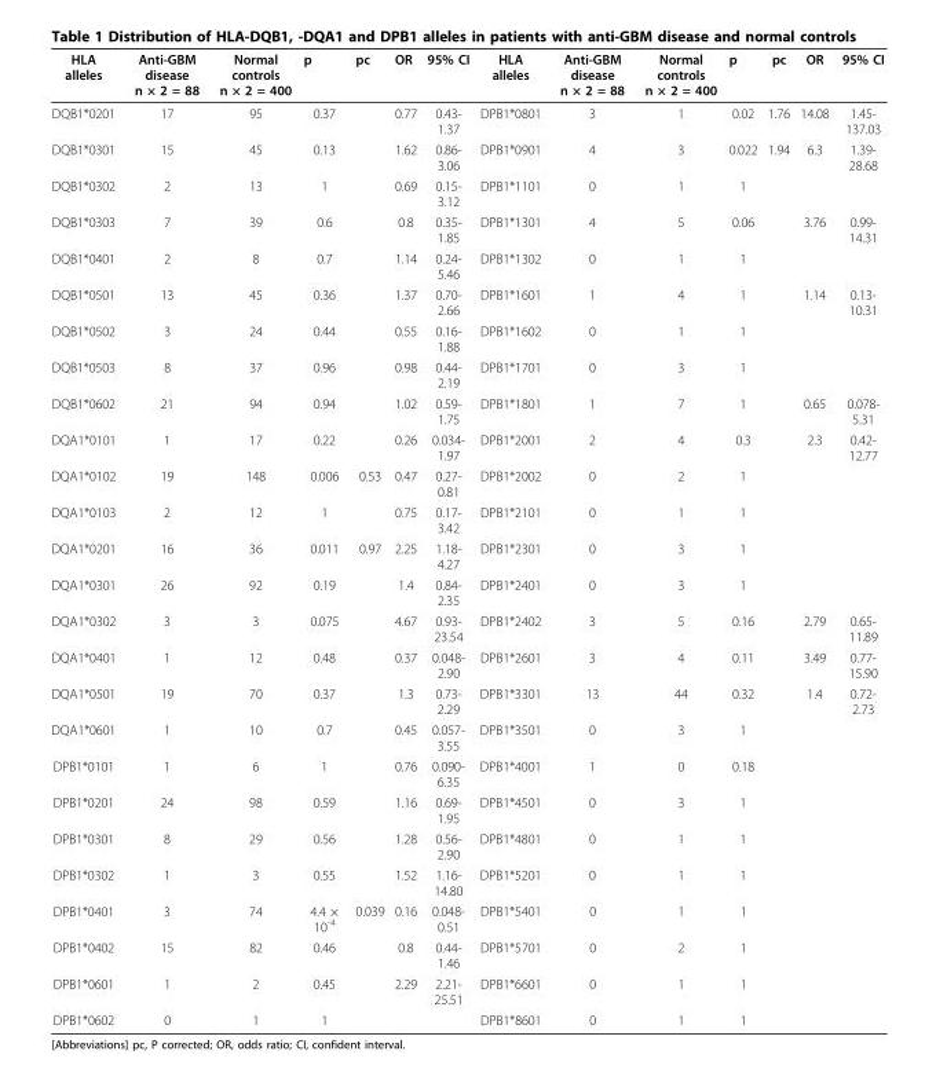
<table><thead><tr><td>HLA alleles</td><td>Anti-GBM disease n × 2 = 88</td><td>Normal controls n × 2 = 400</td><td>p</td><td>pc</td><td>OR</td><td>95% CI</td><td>HLA alleles</td><td>Anti-GBM disease n × 2 = 88</td><td>Normal controls n × 2 = 400</td><td>p</td><td>pc</td><td>OR</td><td>95% CI</td></tr></thead><tbody><tr><td>DQB1*0201</td><td>17</td><td>95</td><td>0.37</td><td></td><td>0.77</td><td>0.43- 1.37</td><td>DPB1*0801</td><td>3</td><td>1</td><td>0.02</td><td>1.76</td><td>14.08</td><td>1.45- 137.03</td></tr><tr><td>DQB1*0301</td><td>15</td><td>45</td><td>0.13</td><td></td><td>1.62</td><td>0.86- 3.06</td><td>DPB1*0901</td><td>4</td><td>3</td><td>0.022</td><td>1.94</td><td>6.3</td><td>1.39- 28.68</td></tr><tr><td>DQB1*0302</td><td>2</td><td>13</td><td>1</td><td></td><td>0.69</td><td>0.15- 3.12</td><td>DPB1*1101</td><td>0</td><td>1</td><td>1</td><td></td><td></td><td></td></tr><tr><td>DQB1*0303</td><td>7</td><td>39</td><td>0.6</td><td></td><td>0.8</td><td>0.35- 1.85</td><td>DPB1*1301</td><td>4</td><td>5</td><td>0.06</td><td></td><td>3.76</td><td>0.99- 14.31</td></tr><tr><td>DQB1*0401</td><td>2</td><td>8</td><td>0.7</td><td></td><td>1.14</td><td>0.24- 5.46</td><td>DPB1*1302</td><td>0</td><td>1</td><td>1</td><td></td><td></td><td></td></tr><tr><td>DQB1*0501</td><td>13</td><td>45</td><td>0.36</td><td></td><td>1.37</td><td>0.70- 2.66</td><td>DPB1*1601</td><td>1</td><td>4</td><td>1</td><td></td><td>1.14</td><td>0.13- 10.31</td></tr><tr><td>DQB1*0502</td><td>3</td><td>24</td><td>0.44</td><td></td><td>0.55</td><td>0.16- 1.88</td><td>DPB1*1602</td><td>0</td><td>1</td><td>1</td><td></td><td></td><td></td></tr><tr><td>DQB1*0503</td><td>8</td><td>37</td><td>0.96</td><td></td><td>0.98</td><td>0.44- 2.19</td><td>DPB1*1701</td><td>0</td><td>3</td><td>1</td><td></td><td></td><td></td></tr><tr><td>DQB1*0602</td><td>21</td><td>94</td><td>0.94</td><td></td><td>1.02</td><td>0.59- 1.75</td><td>DPB1*1801</td><td>1</td><td>7</td><td>1</td><td></td><td>0.65</td><td>0.078- 5.31</td></tr><tr><td>DQA1*0101</td><td>1</td><td>17</td><td>0.22</td><td></td><td>0.26</td><td>0.034- 1.97</td><td>DPB1*2001</td><td>2</td><td>4</td><td>0.3</td><td></td><td>2.3</td><td>0.42- 12.77</td></tr><tr><td>DQA1*0102</td><td>19</td><td>148</td><td>0.006</td><td>0.53</td><td>0.47</td><td>0.27- 0.81</td><td>DPB1*2002</td><td>0</td><td>2</td><td>1</td><td></td><td></td><td></td></tr><tr><td>DQA1*0103</td><td>2</td><td>12</td><td>1</td><td></td><td>0.75</td><td>0.17- 3.42</td><td>DPB1*2101</td><td>0</td><td>1</td><td>1</td><td></td><td></td><td></td></tr><tr><td>DQA1*0201</td><td>16</td><td>36</td><td>0.011</td><td>0.97</td><td>2.25</td><td>1.18- 4.27</td><td>DPB1*2301</td><td>0</td><td>3</td><td>1</td><td></td><td></td><td></td></tr><tr><td>DQA1*0301</td><td>26</td><td>92</td><td>0.19</td><td></td><td>1.4</td><td>0.84- 2.35</td><td>DPB1*2401</td><td>0</td><td>3</td><td>1</td><td></td><td></td><td></td></tr><tr><td>DQA1*0302</td><td>3</td><td>3</td><td>0.075</td><td></td><td>4.67</td><td>0.93- 23.54</td><td>DPB1*2402</td><td>3</td><td>5</td><td>0.16</td><td></td><td>2.79</td><td>0.65- 11.89</td></tr><tr><td>DQA1*0401</td><td>1</td><td>12</td><td>0.48</td><td></td><td>0.37</td><td>0.048- 2.90</td><td>DPB1*2601</td><td>3</td><td>4</td><td>0.11</td><td></td><td>3.49</td><td>0.77- 15.90</td></tr><tr><td>DQA1*0501</td><td>19</td><td>70</td><td>0.37</td><td></td><td>1.3</td><td>0.73- 2.29</td><td>DPB1*3301</td><td>13</td><td>44</td><td>0.32</td><td></td><td>1.4</td><td>0.72- 2.73</td></tr><tr><td>DQA1*0601</td><td>1</td><td>10</td><td>0.7</td><td></td><td>0.45</td><td>0.057- 3.55</td><td>DPB1*3501</td><td>0</td><td>3</td><td>1</td><td></td><td></td><td></td></tr><tr><td>DPB1*0101</td><td>1</td><td>6</td><td>1</td><td></td><td>0.76</td><td>0.090- 6.35</td><td>DPB1*4001</td><td>1</td><td>0</td><td>0.18</td><td></td><td></td><td></td></tr><tr><td>DPB1*0201</td><td>24</td><td>98</td><td>0.59</td><td></td><td>1.16</td><td>0.69- 1.95</td><td>DPB1*4501</td><td>0</td><td>3</td><td>1</td><td></td><td></td><td></td></tr><tr><td>DPB1*0301</td><td>8</td><td>29</td><td>0.56</td><td></td><td>1.28</td><td>0.56- 2.90</td><td>DPB1*4801</td><td>0</td><td>1</td><td>1</td><td></td><td></td><td></td></tr><tr><td>DPB1*0302</td><td>1</td><td>3</td><td>0.55</td><td></td><td>1.52</td><td>1.16- 14.80</td><td>DPB1*5201</td><td>0</td><td>1</td><td>1</td><td></td><td></td><td></td></tr><tr><td>DPB1*0401</td><td>3</td><td>74</td><td>4.4 × 10<sup>-4</sup></td><td>0.039</td><td>0.16</td><td>0.048- 0.51</td><td>DPB1*5401</td><td>0</td><td>1</td><td>1</td><td></td><td></td><td></td></tr><tr><td>DPB1*0402</td><td>15</td><td>82</td><td>0.46</td><td></td><td>0.8</td><td>0.44- 1.46</td><td>DPB1*5701</td><td>0</td><td>2</td><td>1</td><td></td><td></td><td></td></tr><tr><td>DPB1*0601</td><td>1</td><td>2</td><td>0.45</td><td></td><td>2.29</td><td>2.21- 25.51</td><td>DPB1*6601</td><td>0</td><td>1</td><td>1</td><td></td><td></td><td></td></tr><tr><td>DPB1*0602</td><td>0</td><td>1</td><td>1</td><td></td><td></td><td></td><td>DPB1*8601</td><td>0</td><td>1</td><td>1</td><td></td><td></td><td></td></tr></tbody></table>